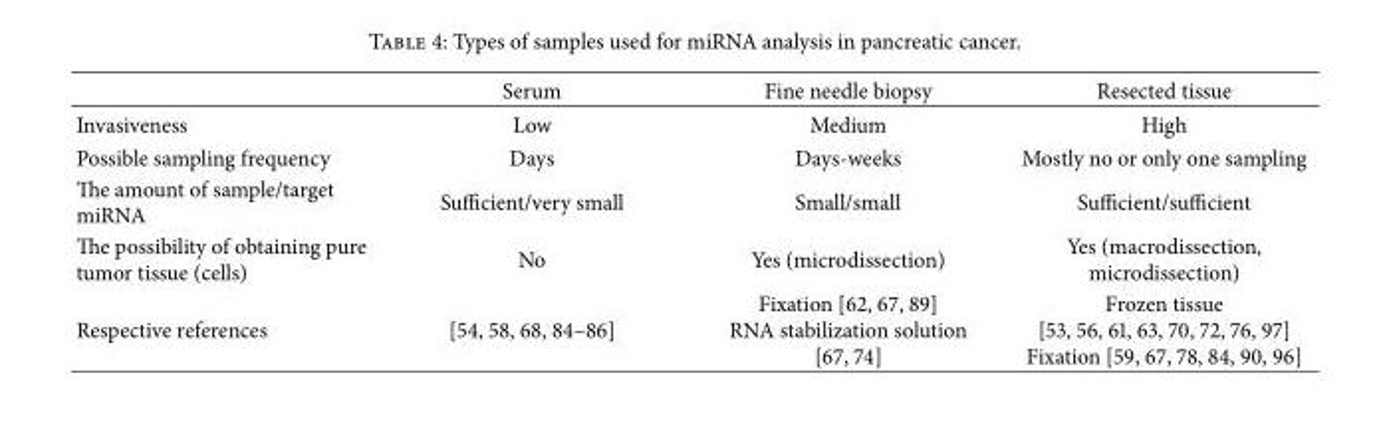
<table><thead><tr><td></td><td>Serum</td><td>Fine needle biopsy</td><td>Resected tissue</td></tr></thead><tbody><tr><td>Invasiveness</td><td>Low</td><td>Medium</td><td>High</td></tr><tr><td>Possible sampling frequency</td><td>Days</td><td>Days-weeks</td><td>Mostly no or only one sampling</td></tr><tr><td>The amount of sample/target miRNA</td><td>Sufficient/very small</td><td>Small/small</td><td>Sufficient/sufficient</td></tr><tr><td>The possibility of obtaining pure tumor tissue (cells)</td><td>No</td><td>Yes (microdissection)</td><td>Yes (macrodissection, microdissection)</td></tr><tr><td>Respective references</td><td>[54, 58, 68, 84–86]</td><td>Fixation [62, 67, 89] RNA stabilization solution [67, 74]</td><td>Frozen tissue [53, 56, 61, 63, 70, 72, 76, 97] Fixation [59, 67, 78, 84, 90, 96]</td></tr></tbody></table>